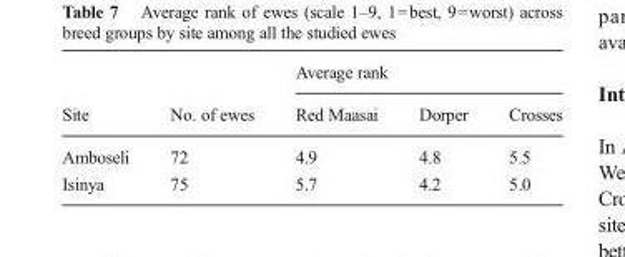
<table><thead><tr><td rowspan="2">Site</td><td rowspan="2">No. of ewes</td><td colspan="3">Average rank</td></tr><tr><td>Red Maasai</td><td>Dorper</td><td>Crosses</td></tr></thead><tbody><tr><td>Amboseli</td><td>72</td><td>4.9</td><td>4.8</td><td>5.5</td></tr><tr><td>Isinya</td><td>75</td><td>5.7</td><td>4.2</td><td>5.0</td></tr></tbody></table>